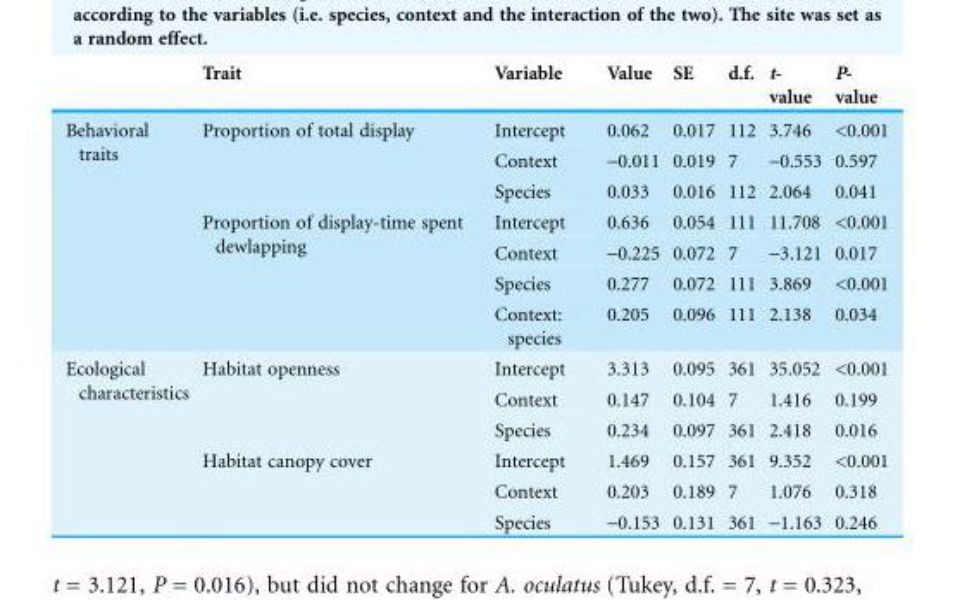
<table><thead><tr><td></td><td>Trait</td><td>Variable</td><td>Value</td><td>SE</td><td>d.f.</td><td>t- value</td><td>P- value</td></tr></thead><tbody><tr><td rowspan="7">Behavioral traits</td><td rowspan="3">Proportion of total display</td><td>Intercept</td><td>0.062</td><td>0.017</td><td>112</td><td>3.746</td><td>&lt;0.001</td></tr><tr><td>Context</td><td>-0.011</td><td>0.019</td><td>7</td><td>-0.553</td><td>0.597</td></tr><tr><td>Species</td><td>0.033</td><td>0.016</td><td>112</td><td>2.064</td><td>0.041</td></tr><tr><td rowspan="4">Proportion of display-time spent dewlapping</td><td>Intercept</td><td>0.636</td><td>0.054</td><td>111</td><td>11.708</td><td>&lt;0.001</td></tr><tr><td>Context</td><td>-0.225</td><td>0.072</td><td>7</td><td>-3.121</td><td>0.017</td></tr><tr><td>Species</td><td>0.277</td><td>0.072</td><td>111</td><td>3.869</td><td>&lt;0.001</td></tr><tr><td>Context: species</td><td>0.205</td><td>0.096</td><td>111</td><td>2.138</td><td>0.034</td></tr><tr><td rowspan="6">Ecological characteristics</td><td rowspan="3">Habitat openness</td><td>Intercept</td><td>3.313</td><td>0.095</td><td>361</td><td>35.052</td><td>&lt;0.001</td></tr><tr><td>Context</td><td>0.147</td><td>0.104</td><td>7</td><td>1.416</td><td>0.199</td></tr><tr><td>Species</td><td>0.234</td><td>0.097</td><td>361</td><td>2.418</td><td>0.016</td></tr><tr><td rowspan="3">Habitat canopy cover</td><td>Intercept</td><td>1.469</td><td>0.157</td><td>361</td><td>9.352</td><td>&lt;0.001</td></tr><tr><td>Context</td><td>0.203</td><td>0.189</td><td>7</td><td>1.076</td><td>0.318</td></tr><tr><td>Species</td><td>-0.153</td><td>0.131</td><td>361</td><td>-1.163</td><td>0.246</td></tr></tbody></table>